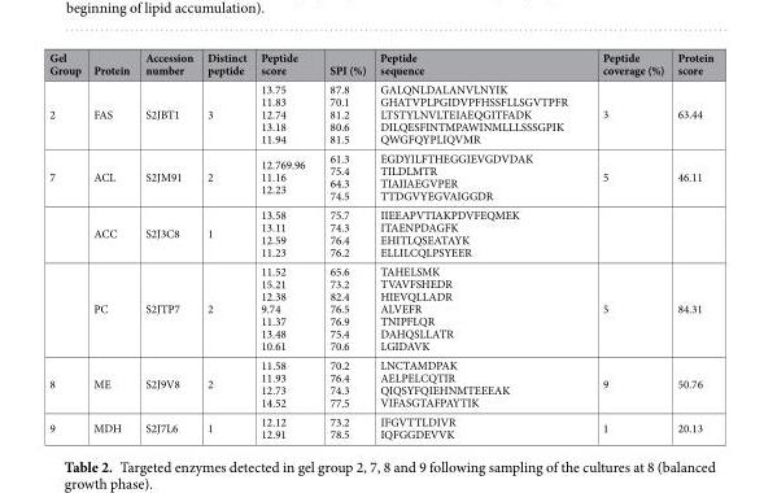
<table><thead><tr><td>Gel Group</td><td>Protein</td><td>Accession number</td><td>Distinct peptide</td><td>Peptide score</td><td>SPI (%)</td><td>Peptide sequence</td><td>Peptide coverage (%)</td><td>Protein score</td></tr></thead><tbody><tr><td>2</td><td>FAS</td><td>S2JBT1</td><td>3</td><td>13.75 11.83 12.74 13.18 11.94</td><td>87.8 70.1 81.2 80.6 81.5</td><td>GALQNLDALANVLNYIK GHATVPLPGIDVPFHSSFLLSGVTPFR LTSTYLNVLTEIAEQGITFADK DILQESFINTMPAWINMLLLSSSGPIK QWGFQYPLIQVMR</td><td>3</td><td>63.44</td></tr><tr><td rowspan="3">7</td><td>ACL</td><td>S2JM91</td><td>2</td><td>12.769.96 11.16 12.23</td><td>61.3 75.4 64.3 74.5</td><td>EGDYILFTHEGGIEVGDVDAK TILDLMTR TIAIIAEGVPER TTDGVYEGVAIGGDR</td><td>5</td><td>46.11</td></tr><tr><td>ACC</td><td>S2J3C8</td><td>1</td><td>13.58 13.11 12.59 11.23</td><td>75.7 74.3 76.4 76.2</td><td>IIEEAPVTIAKPDVFEQMEK ITAENPDAGFK EHITLQSEATAYK ELLILCQLPSYEER</td><td></td><td></td></tr><tr><td>PC</td><td>S2JTP7</td><td>2</td><td>11.52 15.21 12.38 9.74 11.37 13.48 10.61</td><td>65.6 73.2 82.4 76.5 76.9 75.4 70.6</td><td>TAHELSMK TVAVFSHEDR HIEVQLLADR ALVEFR TNIPFLQR DAHQSLLATR LGIDAVK</td><td>5</td><td>84.31</td></tr><tr><td>8</td><td>ME</td><td>S2J9V8</td><td>2</td><td>11.58 11.93 12.73 14.52</td><td>70.2 76.4 74.3 77.5</td><td>LNCTAMDPAK AELPELCQTIR QIQSYFQIEHNMTEEEAK VIFASGTAFPAYTIK</td><td>9</td><td>50.76</td></tr><tr><td>9</td><td>MDH</td><td>S2J7L6</td><td>1</td><td>12.12 12.91</td><td>73.2 78.5</td><td>IFGVTTLDIVR IQFGGDEVVK</td><td>1</td><td>20.13</td></tr></tbody></table>